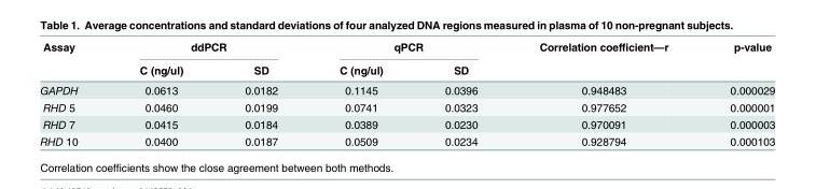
<table><thead><tr><td rowspan="2">Assay</td><td colspan="2">ddPCR</td><td colspan="2">qPCR</td><td rowspan="2">Correlation coefficient—r</td><td rowspan="2">p-value</td></tr><tr><td>C (ng/ul)</td><td>SD</td><td>C (ng/ul)</td><td>SD</td></tr></thead><tbody><tr><td>GAPDH</td><td>0.0613</td><td>0.0182</td><td>0.1145</td><td>0.0396</td><td>0.948483</td><td>0.000029</td></tr><tr><td>RHD 5</td><td>0.0460</td><td>0.0199</td><td>0.0741</td><td>0.0323</td><td>0.977652</td><td>0.000001</td></tr><tr><td>RHD 7</td><td>0.0415</td><td>0.0184</td><td>0.0389</td><td>0.0230</td><td>0.970091</td><td>0.000003</td></tr><tr><td>RHD 10</td><td>0.0400</td><td>0.0187</td><td>0.0509</td><td>0.0234</td><td>0.928794</td><td>0.000103</td></tr></tbody></table>